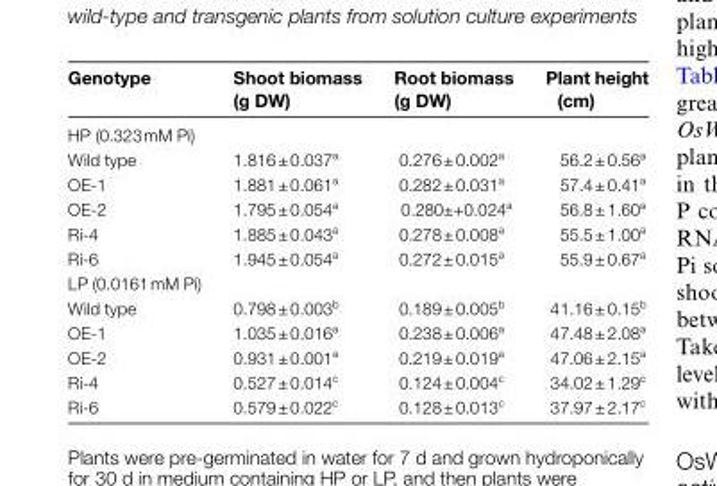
<table><thead><tr><td>Genotype</td><td>Shoot biomass (g DW)</td><td>Root biomass (g DW)</td><td>Plant height (cm)</td></tr></thead><tbody><tr><td colspan="4">HP (0.323 mM Pi)</td></tr><tr><td>Wild type</td><td>1.816 ± 0.037<sup>a</sup></td><td>0.276 ± 0.002<sup>a</sup></td><td>56.2 ± 0.56<sup>a</sup></td></tr><tr><td>OE-1</td><td>1.881 ± 0.061<sup>a</sup></td><td>0.282 ± 0.031<sup>a</sup></td><td>57.4 ± 0.41<sup>a</sup></td></tr><tr><td>OE-2</td><td>1.795 ± 0.054<sup>a</sup></td><td>0.280±+0.024<sup>a</sup></td><td>56.8 ± 1.60<sup>a</sup></td></tr><tr><td>Ri-4</td><td>1.885 ± 0.043<sup>a</sup></td><td>0.278 ± 0.008<sup>a</sup></td><td>55.5 ± 1.00<sup>a</sup></td></tr><tr><td>Ri-6</td><td>1.945 ± 0.054<sup>a</sup></td><td>0.272 ± 0.015<sup>a</sup></td><td>55.9 ± 0.67<sup>a</sup></td></tr><tr><td colspan="4">LP (0.0161 mM Pi)</td></tr><tr><td>Wild type</td><td>0.798 ± 0.003<sup>b</sup></td><td>0.189 ± 0.005<sup>b</sup></td><td>41.16 ± 0.15<sup>b</sup></td></tr><tr><td>OE-1</td><td>1.035 ± 0.016<sup>a</sup></td><td>0.238 ± 0.006<sup>a</sup></td><td>47.48 ± 2.08<sup>a</sup></td></tr><tr><td>OE-2</td><td>0.931 ± 0.001<sup>a</sup></td><td>0.219 ± 0.019<sup>a</sup></td><td>47.06 ± 2.15<sup>a</sup></td></tr><tr><td>Ri-4</td><td>0.527 ± 0.014<sup>c</sup></td><td>0.124 ± 0.004<sup>c</sup></td><td>34.02 ± 1.29<sup>c</sup></td></tr><tr><td>Ri-6</td><td>0.579 ± 0.022<sup>c</sup></td><td>0.128 ± 0.013<sup>c</sup></td><td>37.97 ± 2.17<sup>c</sup></td></tr></tbody></table>